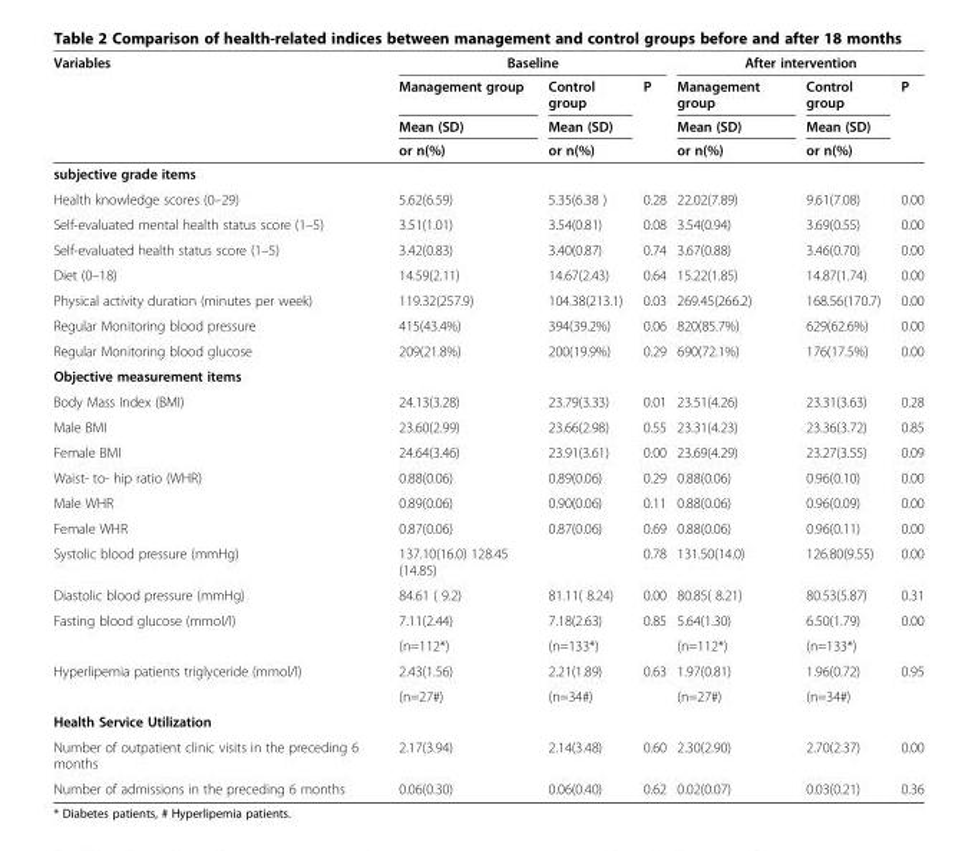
<table><thead><tr><td rowspan="4">Variables</td><td colspan="3">Baseline</td><td colspan="3">After intervention</td></tr><tr><td rowspan="3">Management group Mean (SD) or n(%)</td><td rowspan="3">Control group Mean (SD) or n(%)</td><td rowspan="3">P</td><td rowspan="3">Management group Mean (SD) or n(%)</td><td rowspan="3">Control group Mean (SD) or n(%)</td><td rowspan="3">P</td></tr><tr></tr><tr></tr></thead><tbody><tr><td colspan="7">subjective grade items</td></tr><tr><td>Health knowledge scores (0–29)</td><td>5.62(6.59)</td><td>5.35(6.38 )</td><td>0.28</td><td>22.02(7.89)</td><td>9.61(7.08)</td><td>0.00</td></tr><tr><td>Self-evaluated mental health status score (1–5)</td><td>3.51(1.01)</td><td>3.54(0.81)</td><td>0.08</td><td>3.54(0.94)</td><td>3.69(0.55)</td><td>0.00</td></tr><tr><td>Self-evaluated health status score (1–5)</td><td>3.42(0.83)</td><td>3.40(0.87)</td><td>0.74</td><td>3.67(0.88)</td><td>3.46(0.70)</td><td>0.00</td></tr><tr><td>Diet (0–18)</td><td>14.59(2.11)</td><td>14.67(2.43)</td><td>0.64</td><td>15.22(1.85)</td><td>14.87(1.74)</td><td>0.00</td></tr><tr><td>Physical activity duration (minutes per week)</td><td>119.32(257.9)</td><td>104.38(213.1)</td><td>0.03</td><td>269.45(266.2)</td><td>168.56(170.7)</td><td>0.00</td></tr><tr><td>Regular Monitoring blood pressure</td><td>415(43.4%)</td><td>394(39.2%)</td><td>0.06</td><td>820(85.7%)</td><td>629(62.6%)</td><td>0.00</td></tr><tr><td>Regular Monitoring blood glucose</td><td>209(21.8%)</td><td>200(19.9%)</td><td>0.29</td><td>690(72.1%)</td><td>176(17.5%)</td><td>0.00</td></tr><tr><td colspan="7">Objective measurement items</td></tr><tr><td>Body Mass Index (BMI)</td><td>24.13(3.28)</td><td>23.79(3.33)</td><td>0.01</td><td>23.51(4.26)</td><td>23.31(3.63)</td><td>0.28</td></tr><tr><td>Male BMI</td><td>23.60(2.99)</td><td>23.66(2.98)</td><td>0.55</td><td>23.31(4.23)</td><td>23.36(3.72)</td><td>0.85</td></tr><tr><td>Female BMI</td><td>24.64(3.46)</td><td>23.91(3.61)</td><td>0.00</td><td>23.69(4.29)</td><td>23.27(3.55)</td><td>0.09</td></tr><tr><td>Waist- to- hip ratio (WHR)</td><td>0.88(0.06)</td><td>0.89(0.06)</td><td>0.29</td><td>0.88(0.06)</td><td>0.96(0.10)</td><td>0.00</td></tr><tr><td>Male WHR</td><td>0.89(0.06)</td><td>0.90(0.06)</td><td>0.11</td><td>0.88(0.06)</td><td>0.96(0.09)</td><td>0.00</td></tr><tr><td>Female WHR</td><td>0.87(0.06)</td><td>0.87(0.06)</td><td>0.69</td><td>0.88(0.06)</td><td>0.96(0.11)</td><td>0.00</td></tr><tr><td>Systolic blood pressure (mmHg)</td><td>137.10(16.0) 128.45 (14.85)</td><td></td><td>0.78</td><td>131.50(14.0)</td><td>126.80(9.55)</td><td>0.00</td></tr><tr><td>Diastolic blood pressure (mmHg)</td><td>84.61 ( 9.2)</td><td>81.11( 8.24)</td><td>0.00</td><td>80.85( 8.21)</td><td>80.53(5.87)</td><td>0.31</td></tr><tr><td rowspan="2">Fasting blood glucose (mmol/l)</td><td>7.11(2.44)</td><td>7.18(2.63)</td><td>0.85</td><td>5.64(1.30)</td><td>6.50(1.79)</td><td>0.00</td></tr><tr><td>(n=112*)</td><td>(n=133*)</td><td></td><td>(n=112*)</td><td>(n=133*)</td><td></td></tr><tr><td rowspan="2">Hyperlipemia patients triglyceride (mmol/l)</td><td>2.43(1.56)</td><td>2.21(1.89)</td><td>0.63</td><td>1.97(0.81)</td><td>1.96(0.72)</td><td>0.95</td></tr><tr><td>(n=27#)</td><td>(n=34#)</td><td></td><td>(n=27#)</td><td>(n=34#)</td><td></td></tr><tr><td colspan="7">Health Service Utilization</td></tr><tr><td>Number of outpatient clinic visits in the preceding 6 months</td><td>2.17(3.94)</td><td>2.14(3.48)</td><td>0.60</td><td>2.30(2.90)</td><td>2.70(2.37)</td><td>0.00</td></tr><tr><td>Number of admissions in the preceding 6 months</td><td>0.06(0.30)</td><td>0.06(0.40)</td><td>0.62</td><td>0.02(0.07)</td><td>0.03(0.21)</td><td>0.36</td></tr></tbody></table>